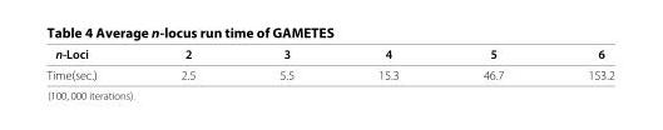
<table><thead><tr><td>n-Loci</td><td>2</td><td>3</td><td>4</td><td>5</td><td>6</td></tr></thead><tbody><tr><td>Time(sec.)</td><td>2.5</td><td>5.5</td><td>15.3</td><td>46.7</td><td>153.2</td></tr></tbody></table>